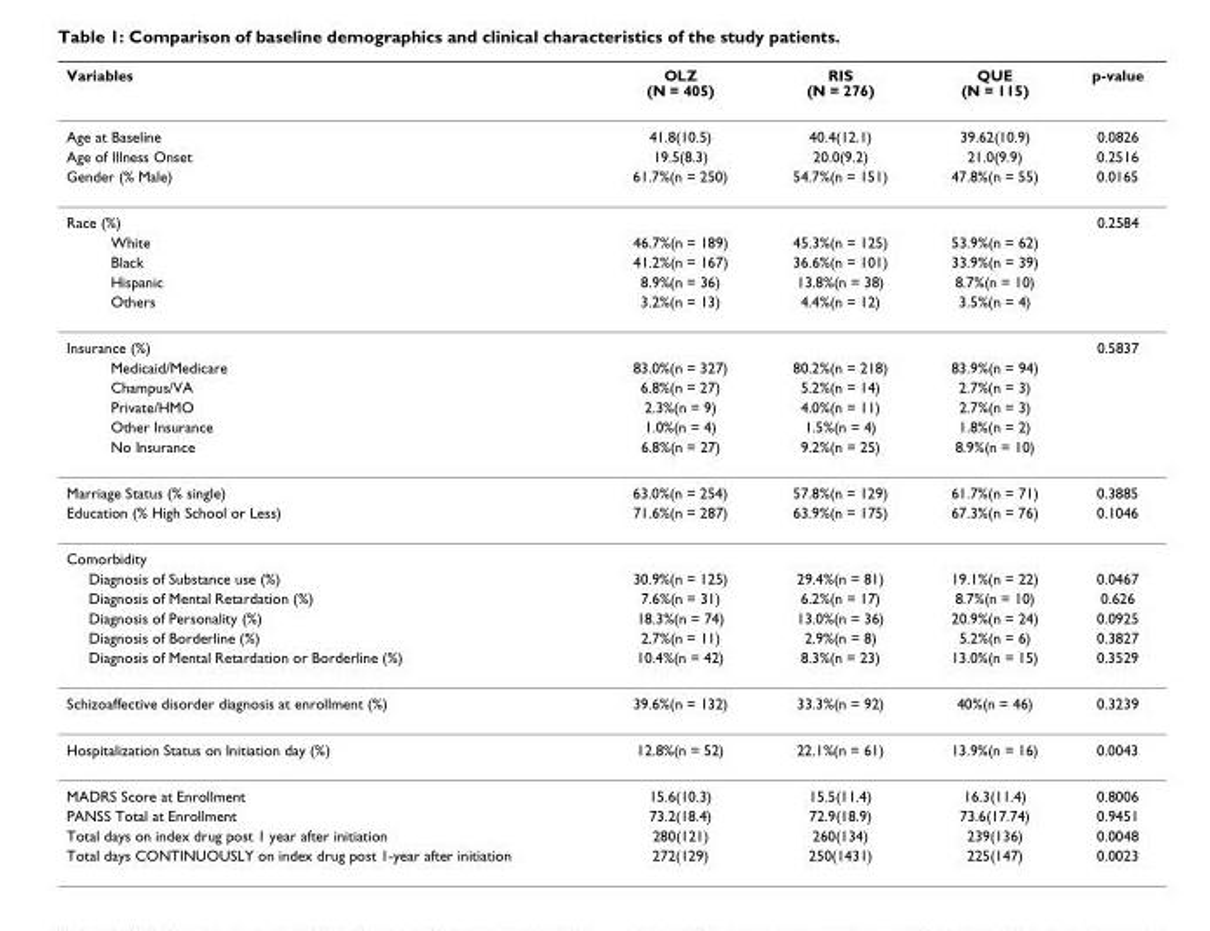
<table><thead><tr><td>Variables</td><td>OLZ (N = 405)</td><td>RIS (N = 276)</td><td>QUE (N = 115)</td><td>p-value</td></tr></thead><tbody><tr><td>Age at Baseline</td><td>41.8(10.5)</td><td>40.4(12.1)</td><td>39.62(10.9)</td><td>0.0826</td></tr><tr><td>Age of Illness Onset</td><td>19.5(8.3)</td><td>20.0(9.2)</td><td>21.0(9.9)</td><td>0.2516</td></tr><tr><td>Gender (% Male)</td><td>61.7%(n = 250)</td><td>54.7%(n = 151)</td><td>47.8%(n = 55)</td><td>0.0165</td></tr><tr><td>Race (%)</td><td></td><td></td><td></td><td>0.2584</td></tr><tr><td>White</td><td>46.7%(n = 189)</td><td>45.3%(n = 125)</td><td>53.9%(n = 62)</td><td></td></tr><tr><td>Black</td><td>41.2%(n = 167)</td><td>36.6%(n = 101)</td><td>33.9%(n = 39)</td><td></td></tr><tr><td>Hispanic</td><td>8.9%(n = 36)</td><td>13.8%(n = 38)</td><td>8.7%(n = 10)</td><td></td></tr><tr><td>Others</td><td>3.2%(n = 13)</td><td>4.4%(n = 12)</td><td>3.5%(n = 4)</td><td></td></tr><tr><td>Insurance (%)</td><td></td><td></td><td></td><td>0.5837</td></tr><tr><td>Medicaid/Medicare</td><td>83.0%(n = 327)</td><td>80.2%(n = 218)</td><td>83.9%(n = 94)</td><td></td></tr><tr><td>Champus/VA</td><td>6.8%(n = 27)</td><td>5.2%(n = 14)</td><td>2.7%(n = 3)</td><td></td></tr><tr><td>Private/HMO</td><td>2.3%(n = 9)</td><td>4.0%(n = 11)</td><td>2.7%(n = 3)</td><td></td></tr><tr><td>Other Insurance</td><td>1.0%(n = 4)</td><td>1.5%(n = 4)</td><td>1.8%(n = 2)</td><td></td></tr><tr><td>No Insurance</td><td>6.8%(n = 27)</td><td>9.2%(n = 25)</td><td>8.9%(n = 10)</td><td></td></tr><tr><td>Marriage Status (% single)</td><td>63.0%(n = 254)</td><td>57.8%(n = 129)</td><td>61.7%(n = 71)</td><td>0.3885</td></tr><tr><td>Education (% High School or Less)</td><td>71.6%(n = 287)</td><td>63.9%(n = 175)</td><td>67.3%(n = 76)</td><td>0.1046</td></tr><tr><td colspan="5">Comorbidity</td></tr><tr><td>Diagnosis of Substance use (%)</td><td>30.9%(n = 125)</td><td>29.4%(n = 81)</td><td>19.1%(n = 22)</td><td>0.0467</td></tr><tr><td>Diagnosis of Mental Retardation (%)</td><td>7.6%(n = 31)</td><td>6.2%(n = 17)</td><td>8.7%(n = 10)</td><td>0.626</td></tr><tr><td>Diagnosis of Personality (%)</td><td>18.3%(n = 74)</td><td>13.0%(n = 36)</td><td>20.9%(n = 24)</td><td>0.0925</td></tr><tr><td>Diagnosis of Borderline (%)</td><td>2.7%(n = 11)</td><td>2.9%(n = 8)</td><td>5.2%(n = 6)</td><td>0.3827</td></tr><tr><td>Diagnosis of Mental Retardation or Borderline (%)</td><td>10.4%(n = 42)</td><td>8.3%(n = 23)</td><td>13.0%(n = 15)</td><td>0.3529</td></tr><tr><td>Schizoaffective disorder diagnosis at enrollment (%)</td><td>39.6%(n = 132)</td><td>33.3%(n = 92)</td><td>40%(n = 46)</td><td>0.3239</td></tr><tr><td>Hospitalization Status on Initiation day (%)</td><td>12.8%(n = 52)</td><td>22.1%(n = 61)</td><td>13.9%(n = 16)</td><td>0.0043</td></tr><tr><td>MADRS Score at Enrollment</td><td>15.6(10.3)</td><td>15.5(11.4)</td><td>16.3(11.4)</td><td>0.8006</td></tr><tr><td>PANSS Total at Enrollment</td><td>73.2(18.4)</td><td>72.9(18.9)</td><td>73.6(17.74)</td><td>0.9451</td></tr><tr><td>Total days on index drug post 1 year after initiation</td><td>280(121)</td><td>260(134)</td><td>239(136)</td><td>0.0048</td></tr><tr><td>Total days CONTINUOUSLY on index drug post 1-year after initiation</td><td>272(129)</td><td>250(1431)</td><td>225(147)</td><td>0.0023</td></tr></tbody></table>